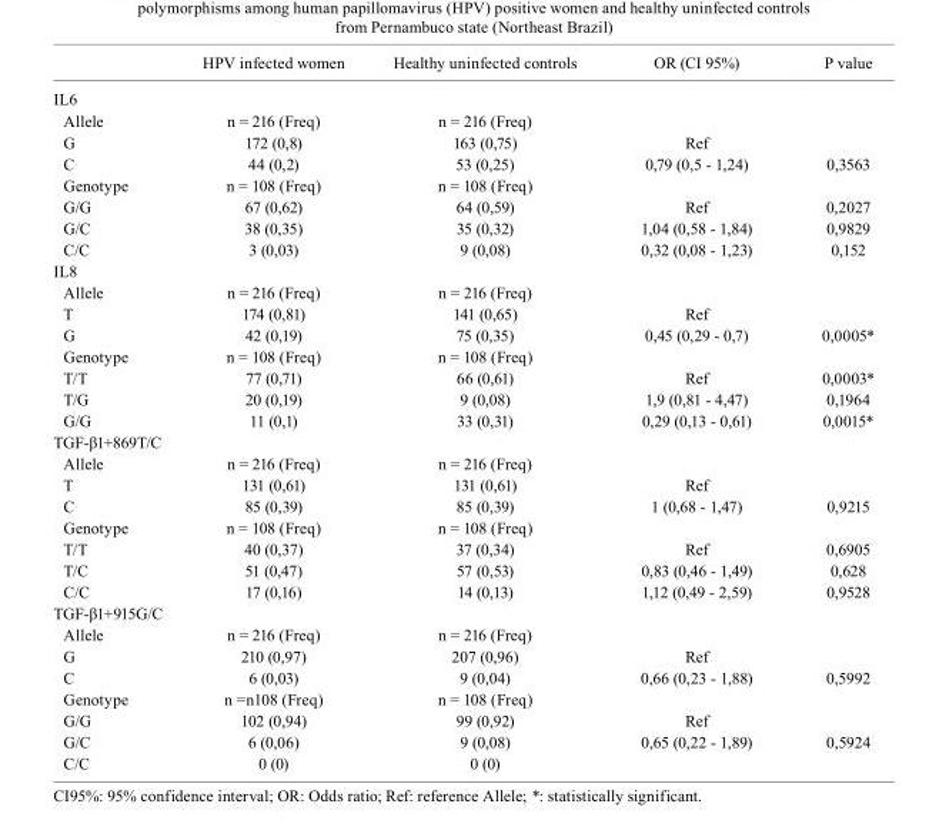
<table><thead><tr><td></td><td>HPV infected women</td><td>Healthy uninfected controls</td><td>OR (CI 95%)</td><td>P value</td></tr></thead><tbody><tr><td colspan="5">IL6</td></tr><tr><td>Allele</td><td>n = 216 (Freq)</td><td>n = 216 (Freq)</td><td></td><td></td></tr><tr><td>G</td><td>172 (0,8)</td><td>163 (0,75)</td><td>Ref</td><td></td></tr><tr><td>C</td><td>44 (0,2)</td><td>53 (0,25)</td><td>0,79 (0,5 - 1,24)</td><td>0,3563</td></tr><tr><td>Genotype</td><td>n = 108 (Freq)</td><td>n = 108 (Freq)</td><td></td><td></td></tr><tr><td>G/G</td><td>67 (0,62)</td><td>64 (0,59)</td><td>Ref</td><td>0,2027</td></tr><tr><td>G/C</td><td>38 (0,35)</td><td>35 (0,32)</td><td>1,04 (0,58 - 1,84)</td><td>0,9829</td></tr><tr><td>C/C</td><td>3 (0,03)</td><td>9 (0,08)</td><td>0,32 (0,08 - 1,23)</td><td>0,152</td></tr><tr><td colspan="5">IL8</td></tr><tr><td>Allele</td><td>n = 216 (Freq)</td><td>n = 216 (Freq)</td><td></td><td></td></tr><tr><td>T</td><td>174 (0,81)</td><td>141 (0,65)</td><td>Ref</td><td></td></tr><tr><td>G</td><td>42 (0,19)</td><td>75 (0,35)</td><td>0,45 (0,29 - 0,7)</td><td>0,0005*</td></tr><tr><td>Genotype</td><td>n = 108 (Freq)</td><td>n = 108 (Freq)</td><td></td><td></td></tr><tr><td>T/T</td><td>77 (0,71)</td><td>66 (0,61)</td><td>Ref</td><td>0,0003*</td></tr><tr><td>T/G</td><td>20 (0,19)</td><td>9 (0,08)</td><td>1,9 (0,81 - 4,47)</td><td>0,1964</td></tr><tr><td>G/G</td><td>11 (0,1)</td><td>33 (0,31)</td><td>0,29 (0,13 - 0,61)</td><td>0,0015*</td></tr><tr><td colspan="5">TGF-β1+869T/C</td></tr><tr><td>Allele</td><td>n = 216 (Freq)</td><td>n = 216 (Freq)</td><td></td><td></td></tr><tr><td>T</td><td>131 (0,61)</td><td>131 (0,61)</td><td>Ref</td><td></td></tr><tr><td>C</td><td>85 (0,39)</td><td>85 (0,39)</td><td>1 (0,68 - 1,47)</td><td>0,9215</td></tr><tr><td>Genotype</td><td>n = 108 (Freq)</td><td>n = 108 (Freq)</td><td></td><td></td></tr><tr><td>T/T</td><td>40 (0,37)</td><td>37 (0,34)</td><td>Ref</td><td>0,6905</td></tr><tr><td>T/C</td><td>51 (0,47)</td><td>57 (0,53)</td><td>0,83 (0,46 - 1,49)</td><td>0,628</td></tr><tr><td>C/C</td><td>17 (0,16)</td><td>14 (0,13)</td><td>1,12 (0,49 - 2,59)</td><td>0,9528</td></tr><tr><td colspan="5">TGF-β1+915G/C</td></tr><tr><td>Allele</td><td>n = 216 (Freq)</td><td>n = 216 (Freq)</td><td></td><td></td></tr><tr><td>G</td><td>210 (0,97)</td><td>207 (0,96)</td><td>Ref</td><td></td></tr><tr><td>C</td><td>6 (0,03)</td><td>9 (0,04)</td><td>0,66 (0,23 - 1,88)</td><td>0,5992</td></tr><tr><td>Genotype</td><td>n =n108 (Freq)</td><td>n = 108 (Freq)</td><td></td><td></td></tr><tr><td>G/G</td><td>102 (0,94)</td><td>99 (0,92)</td><td>Ref</td><td></td></tr><tr><td>G/C</td><td>6 (0,06)</td><td>9 (0,08)</td><td>0,65 (0,22 - 1,89)</td><td>0,5924</td></tr><tr><td>C/C</td><td>0 (0)</td><td>0 (0)</td><td></td><td></td></tr></tbody></table>